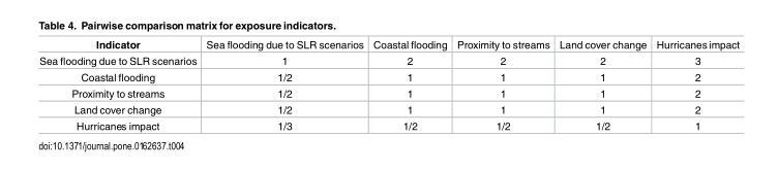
<table><tbody><tr><td>Indicator</td><td>Sea flooding due to SLR scenarios</td><td>Coastal flooding</td><td>Proximity to streams</td><td>Land cover change</td><td>Hurricanes impact</td></tr><tr><td>Sea flooding due to SLR scenarios</td><td>1</td><td>2</td><td>2</td><td>2</td><td>3</td></tr><tr><td>Coastal flooding</td><td>1/2</td><td>1</td><td>1</td><td>1</td><td>2</td></tr><tr><td>Proximity to streams</td><td>1/2</td><td>1</td><td>1</td><td>1</td><td>2</td></tr><tr><td>Land cover change</td><td>1/2</td><td>1</td><td>1</td><td>1</td><td>2</td></tr><tr><td>Hurricanes impact</td><td>1/3</td><td>1/2</td><td>1/2</td><td>1/2</td><td>1</td></tr></tbody></table>